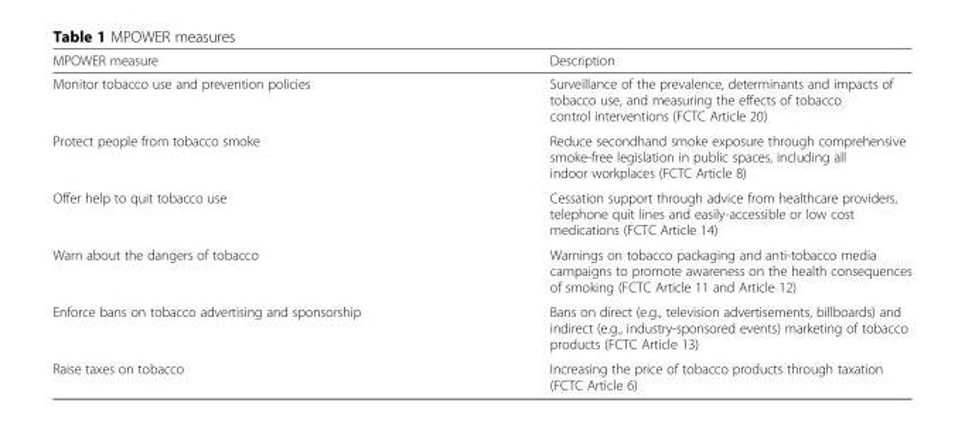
<table><thead><tr><td>MPOWER measure</td><td>Description</td></tr></thead><tbody><tr><td>Monitor tobacco use and prevention policies</td><td>Surveillance of the prevalence, determinants and impacts of tobacco use, and measuring the effects of tobacco control interventions (FCTC Article 20)</td></tr><tr><td>Protect people from tobacco smoke</td><td>Reduce secondhand smoke exposure through comprehensive smoke-free legislation in public spaces, including all indoor workplaces (FCTC Article 8)</td></tr><tr><td>Offer help to quit tobacco use</td><td>Cessation support through advice from healthcare providers, telephone quit lines and easily-accessible or low cost medications (FCTC Article 14)</td></tr><tr><td>Warn about the dangers of tobacco</td><td>Warnings on tobacco packaging and anti-tobacco media campaigns to promote awareness on the health consequences of smoking (FCTC Article 11 and Article 12)</td></tr><tr><td>Enforce bans on tobacco advertising and sponsorship</td><td>Bans on direct (e.g., television advertisements, billboards) and indirect (e.g., industry-sponsored events) marketing of tobacco products (FCTC Article 13)</td></tr><tr><td>Raise taxes on tobacco</td><td>Increasing the price of tobacco products through taxation (FCTC Article 6)</td></tr></tbody></table>